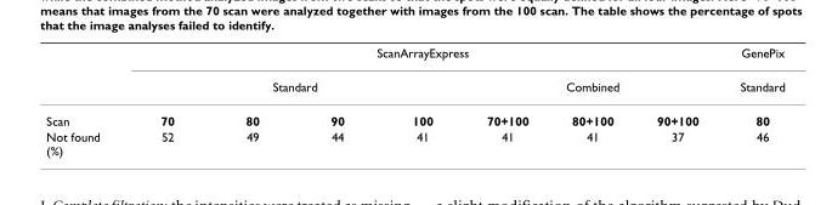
<table><thead><tr><td rowspan="3">Scan</td><td colspan="7">ScanArrayExpress</td><td rowspan="3">GenePix Standard 80</td></tr><tr><td colspan="4">Standard</td><td colspan="3">Combined</td></tr><tr><td>70</td><td>80</td><td>90</td><td>100</td><td>70+100</td><td>80+100</td><td>90+100</td></tr></thead><tbody><tr><td>Not found (%)</td><td>52</td><td>49</td><td>44</td><td>41</td><td>41</td><td>41</td><td>37</td><td>46</td></tr></tbody></table>